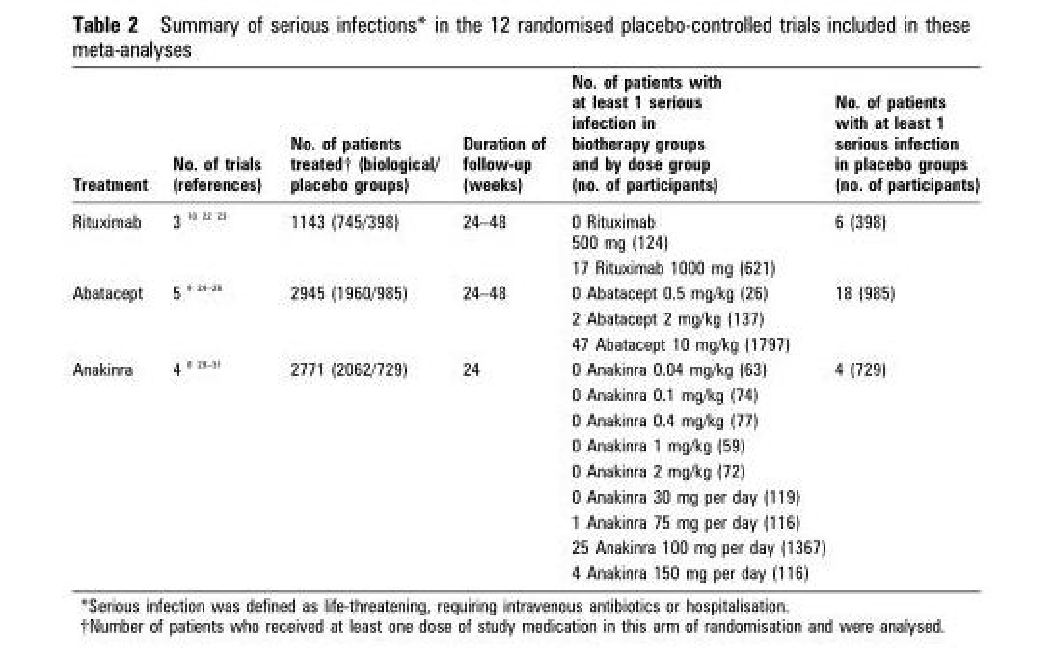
<table><thead><tr><td>Treatment</td><td>No. of trials (references)</td><td>No. of patients treated† (biological/ placebo groups)</td><td>Duration of follow-up (weeks)</td><td>No. of patients with at least 1 serious infection in biotherapy groups and by dose group (no. of participants)</td><td>No. of patients with at least 1 serious infection in placebo groups (no. of participants)</td></tr></thead><tbody><tr><td rowspan="2">Rituximab</td><td>3 10 22 23</td><td>1143 (745/398)</td><td>24–48</td><td>0 Rituximab 500 mg (124)</td><td>6 (398)</td></tr><tr><td></td><td></td><td></td><td>17 Rituximab 1000 mg (621)</td><td></td></tr><tr><td rowspan="3">Abatacept</td><td>5 9 24–28</td><td>2945 (1960/985)</td><td>24–48</td><td>0 Abatacept 0.5 mg/kg (26)</td><td>18 (985)</td></tr><tr><td></td><td></td><td></td><td>2 Abatacept 2 mg/kg (137)</td><td></td></tr><tr><td></td><td></td><td></td><td>47 Abatacept 10 mg/kg (1797)</td><td></td></tr><tr><td rowspan="9">Anakinra</td><td>4 8 29–31</td><td>2771 (2062/729)</td><td>24</td><td>0 Anakinra 0.04 mg/kg (63)</td><td>4 (729)</td></tr><tr><td></td><td></td><td></td><td>0 Anakinra 0.1 mg/kg (74)</td><td></td></tr><tr><td></td><td></td><td></td><td>0 Anakinra 0.4 mg/kg (77)</td><td></td></tr><tr><td></td><td></td><td></td><td>0 Anakinra 1 mg/kg (59)</td><td></td></tr><tr><td></td><td></td><td></td><td>0 Anakinra 2 mg/kg (72)</td><td></td></tr><tr><td></td><td></td><td></td><td>0 Anakinra 30 mg per day (119)</td><td></td></tr><tr><td></td><td></td><td></td><td>1 Anakinra 75 mg per day (116)</td><td></td></tr><tr><td></td><td></td><td></td><td>25 Anakinra 100 mg per day (1367)</td><td></td></tr><tr><td></td><td></td><td></td><td>4 Anakinra 150 mg per day (116)</td><td></td></tr></tbody></table>